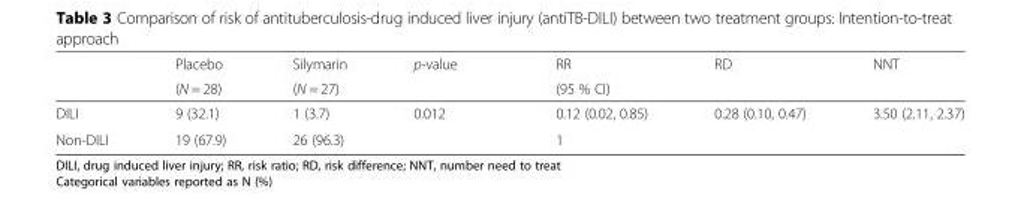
<table><thead><tr><td rowspan="2"></td><td rowspan="2">Placebo (N = 28)</td><td rowspan="2">Silymarin (N = 27)</td><td rowspan="2">p-value</td><td rowspan="2">RR (95 % CI)</td><td rowspan="2">RD</td><td rowspan="2">NNT</td></tr><tr></tr></thead><tbody><tr><td>DILI</td><td>9 (32.1)</td><td>1 (3.7)</td><td>0.012</td><td>0.12 (0.02, 0.85)</td><td>0.28 (0.10, 0.47)</td><td>3.50 (2.11, 2.37)</td></tr><tr><td>Non-DILI</td><td>19 (67.9)</td><td>26 (96.3)</td><td></td><td>1</td><td></td><td></td></tr></tbody></table>